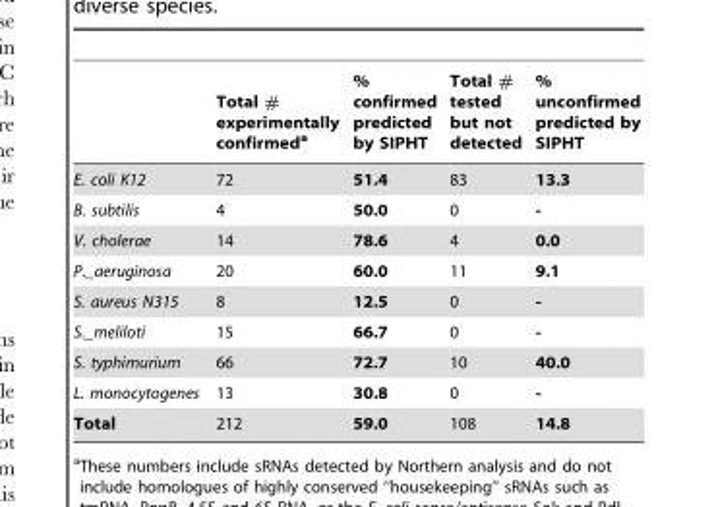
<table><thead><tr><td></td><td>Total # experimentally confirmed<sup>a</sup></td><td>% confirmed predicted by SIPHT</td><td>Total # tested but not detected</td><td>% unconfirmed predicted by SIPHT</td></tr></thead><tbody><tr><td>E. coli K12</td><td>72</td><td>51.4</td><td>83</td><td>13.3</td></tr><tr><td>B. subtilis</td><td>4</td><td>50.0</td><td>0</td><td>-</td></tr><tr><td>V. cholerae</td><td>14</td><td>78.6</td><td>4</td><td>0.0</td></tr><tr><td>P._aeruginosa</td><td>20</td><td>60.0</td><td>11</td><td>9.1</td></tr><tr><td>S. aureus N315</td><td>8</td><td>12.5</td><td>0</td><td>-</td></tr><tr><td>S._meliloti</td><td>15</td><td>66.7</td><td>0</td><td>-</td></tr><tr><td>S. typhimurium</td><td>66</td><td>72.7</td><td>10</td><td>40.0</td></tr><tr><td>L. monocytogenes</td><td>13</td><td>30.8</td><td>0</td><td>-</td></tr><tr><td>Total</td><td>212</td><td>59.0</td><td>108</td><td>14.8</td></tr></tbody></table>